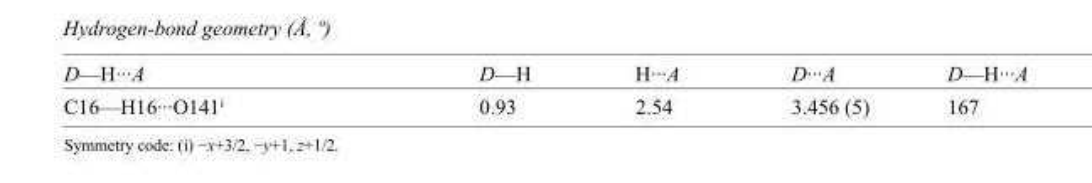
<table><tbody><tr><td>D—H···A</td><td>D—H</td><td>H···A</td><td>D···A</td><td>D—H···A</td></tr><tr><td>C16—H16···O141<sup>i</sup></td><td>0.93</td><td>2.54</td><td>3.456 (5)</td><td>167</td></tr></tbody></table>